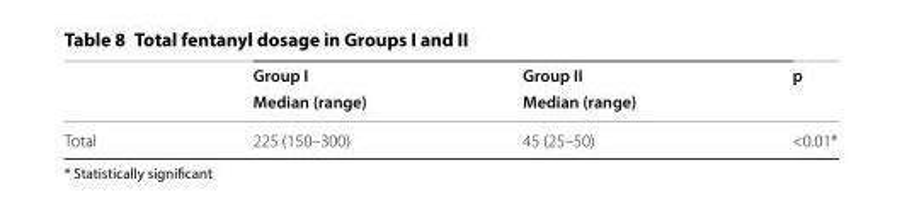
<table><thead><tr><td rowspan="2"></td><td rowspan="2">Group I Median (range)</td><td rowspan="2">Group II Median (range)</td><td rowspan="2">p</td></tr><tr></tr></thead><tbody><tr><td>Total</td><td>225 (150–300)</td><td>45 (25–50)</td><td>&lt;0.01*</td></tr></tbody></table>